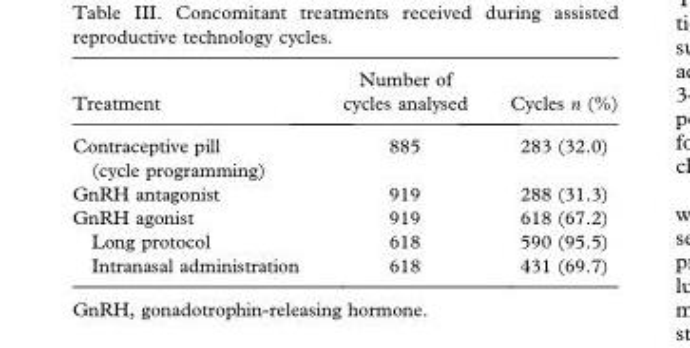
<table><thead><tr><td>Treatment</td><td>Number of cycles analysed</td><td>Cycles n (%)</td></tr></thead><tbody><tr><td>Contraceptive pill (cycle programming)</td><td>885</td><td>283 (32.0)</td></tr><tr><td>GnRH antagonist</td><td>919</td><td>288 (31.3)</td></tr><tr><td>GnRH agonist</td><td>919</td><td>618 (67.2)</td></tr><tr><td>Long protocol</td><td>618</td><td>590 (95.5)</td></tr><tr><td>Intranasal administration</td><td>618</td><td>431 (69.7)</td></tr></tbody></table>